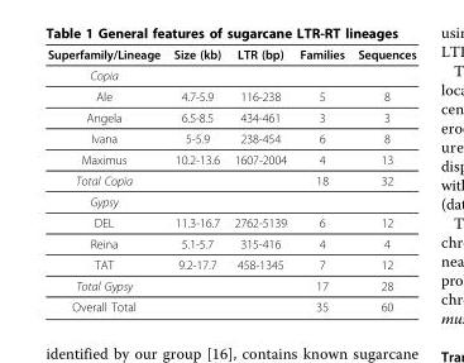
<table><thead><tr><td>Superfamily/Lineage</td><td>Size (kb)</td><td>LTR (bp)</td><td>Families</td><td>Sequences</td></tr></thead><tbody><tr><td colspan="5">Copia</td></tr><tr><td>Ale</td><td>4.7-5.9</td><td>116-238</td><td>5</td><td>8</td></tr><tr><td>Angela</td><td>6.5-8.5</td><td>434-461</td><td>3</td><td>3</td></tr><tr><td>Ivana</td><td>5-5.9</td><td>238-454</td><td>6</td><td>8</td></tr><tr><td>Maximus</td><td>10.2-13.6</td><td>1607-2004</td><td>4</td><td>13</td></tr><tr><td>Total Copia</td><td></td><td></td><td>18</td><td>32</td></tr><tr><td colspan="5">Gypsy</td></tr><tr><td>DEL</td><td>11.3-16.7</td><td>2762-5139</td><td>6</td><td>12</td></tr><tr><td>Reina</td><td>5.1-5.7</td><td>315-416</td><td>4</td><td>4</td></tr><tr><td>TAT</td><td>9.2-17.7</td><td>458-1345</td><td>7</td><td>12</td></tr><tr><td>Total Gypsy</td><td></td><td></td><td>17</td><td>28</td></tr><tr><td>Overall Total</td><td></td><td></td><td>35</td><td>60</td></tr></tbody></table>